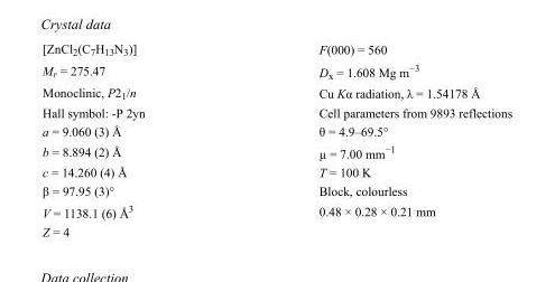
<table><tbody><tr><td>[ZnCl<sub>2</sub>(C<sub>7</sub>H<sub>13</sub>N<sub>3</sub>)]</td><td>F(000) = 560</td></tr><tr><td>M<sub>r</sub> = 275.47</td><td>D<sub>x</sub> = 1.608 Mg m<sup>−3</sup></td></tr><tr><td>Monoclinic, P2<sub>1</sub>/n</td><td>Cu Kα radiation, λ = 1.54178 Å</td></tr><tr><td>Hall symbol: -P 2yn</td><td>Cell parameters from 9893 reflections</td></tr><tr><td>a = 9.060 (3) Å</td><td>θ = 4.9–69.5°</td></tr><tr><td>b = 8.894 (2) Å</td><td>µ = 7.00 mm<sup>−1</sup></td></tr><tr><td>c = 14.260 (4) Å</td><td>T = 100 K</td></tr><tr><td>β = 97.95 (3)°</td><td>Block, colourless</td></tr><tr><td>V = 1138.1 (6) Å<sup>3</sup></td><td>0.48 × 0.28 × 0.21 mm</td></tr><tr><td>Z = 4</td><td></td></tr></tbody></table>